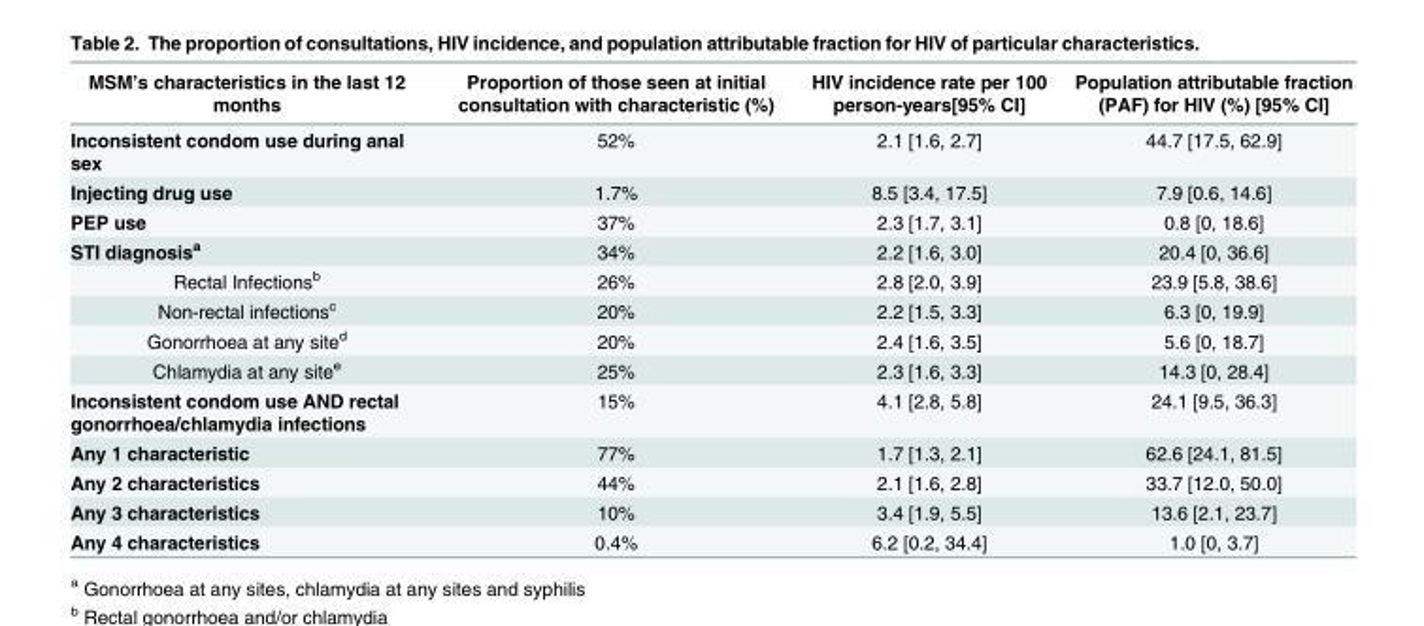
<table><thead><tr><td>MSM’s characteristics in the last 12 months</td><td>Proportion of those seen at initial consultation with characteristic (%)</td><td>HIV incidence rate per 100 person-years[95% CI]</td><td>Population attributable fraction (PAF) for HIV (%) [95% CI]</td></tr></thead><tbody><tr><td>Inconsistent condom use during anal sex</td><td>52%</td><td>2.1 [1.6, 2.7]</td><td>44.7 [17.5, 62.9]</td></tr><tr><td>Injecting drug use</td><td>1.7%</td><td>8.5 [3.4, 17.5]</td><td>7.9 [0.6, 14.6]</td></tr><tr><td>PEP use</td><td>37%</td><td>2.3 [1.7, 3.1]</td><td>0.8 [0, 18.6]</td></tr><tr><td>STI diagnosis<sup>a</sup></td><td>34%</td><td>2.2 [1.6, 3.0]</td><td>20.4 [0, 36.6]</td></tr><tr><td>Rectal Infections<sup>b</sup></td><td>26%</td><td>2.8 [2.0, 3.9]</td><td>23.9 [5.8, 38.6]</td></tr><tr><td>Non-rectal infections<sup>c</sup></td><td>20%</td><td>2.2 [1.5, 3.3]</td><td>6.3 [0, 19.9]</td></tr><tr><td>Gonorrhoea at any site<sup>d</sup></td><td>20%</td><td>2.4 [1.6, 3.5]</td><td>5.6 [0, 18.7]</td></tr><tr><td>Chlamydia at any site<sup>e</sup></td><td>25%</td><td>2.3 [1.6, 3.3]</td><td>14.3 [0, 28.4]</td></tr><tr><td>Inconsistent condom use AND rectal gonorrhoea/chlamydia infections</td><td>15%</td><td>4.1 [2.8, 5.8]</td><td>24.1 [9.5, 36.3]</td></tr><tr><td>Any 1 characteristic</td><td>77%</td><td>1.7 [1.3, 2.1]</td><td>62.6 [24.1, 81.5]</td></tr><tr><td>Any 2 characteristics</td><td>44%</td><td>2.1 [1.6, 2.8]</td><td>33.7 [12.0, 50.0]</td></tr><tr><td>Any 3 characteristics</td><td>10%</td><td>3.4 [1.9, 5.5]</td><td>13.6 [2.1, 23.7]</td></tr><tr><td>Any 4 characteristics</td><td>0.4%</td><td>6.2 [0.2, 34.4]</td><td>1.0 [0, 3.7]</td></tr></tbody></table>